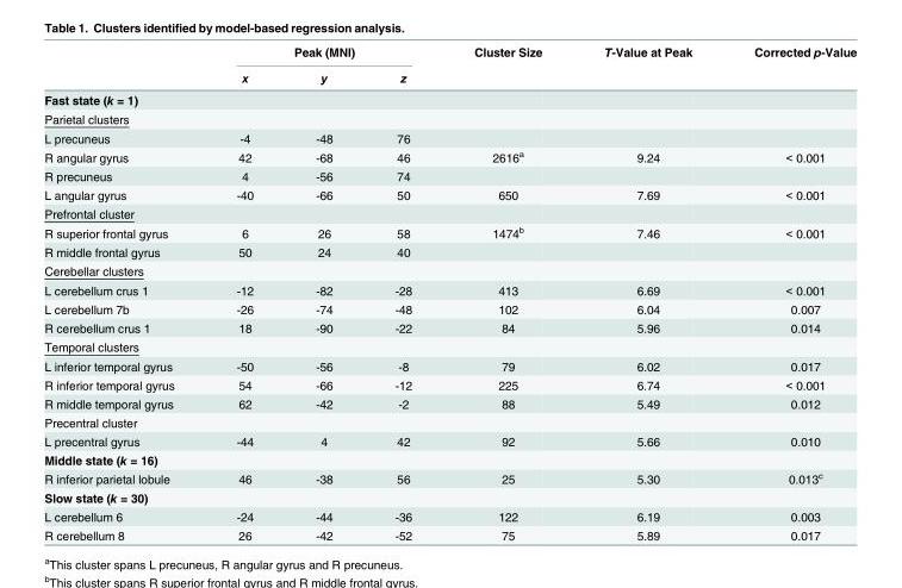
<table><thead><tr><td rowspan="2"></td><td colspan="3">Peak (MNI)</td><td rowspan="2">Cluster Size</td><td rowspan="2">T-Value at Peak</td><td rowspan="2">Corrected p-Value</td></tr><tr><td>x</td><td>y</td><td>z</td></tr></thead><tbody><tr><td colspan="7">Fast state (k = 1)</td></tr><tr><td colspan="7">Parietal clusters</td></tr><tr><td>L precuneus</td><td>-4</td><td>-48</td><td>76</td><td></td><td></td><td></td></tr><tr><td>R angular gyrus</td><td>42</td><td>-68</td><td>46</td><td>2616<sup>a</sup></td><td>9.24</td><td>&lt; 0.001</td></tr><tr><td>R precuneus</td><td>4</td><td>-56</td><td>74</td><td></td><td></td><td></td></tr><tr><td>L angular gyrus</td><td>-40</td><td>-66</td><td>50</td><td>650</td><td>7.69</td><td>&lt; 0.001</td></tr><tr><td colspan="7">Prefrontal cluster</td></tr><tr><td>R superior frontal gyrus</td><td>6</td><td>26</td><td>58</td><td>1474<sup>b</sup></td><td>7.46</td><td>&lt; 0.001</td></tr><tr><td>R middle frontal gyrus</td><td>50</td><td>24</td><td>40</td><td></td><td></td><td></td></tr><tr><td colspan="7">Cerebellar clusters</td></tr><tr><td>L cerebellum crus 1</td><td>-12</td><td>-82</td><td>-28</td><td>413</td><td>6.69</td><td>&lt; 0.001</td></tr><tr><td>L cerebellum 7b</td><td>-26</td><td>-74</td><td>-48</td><td>102</td><td>6.04</td><td>0.007</td></tr><tr><td>R cerebellum crus 1</td><td>18</td><td>-90</td><td>-22</td><td>84</td><td>5.96</td><td>0.014</td></tr><tr><td colspan="7">Temporal clusters</td></tr><tr><td>L inferior temporal gyrus</td><td>-50</td><td>-56</td><td>-8</td><td>79</td><td>6.02</td><td>0.017</td></tr><tr><td>R inferior temporal gyrus</td><td>54</td><td>-66</td><td>-12</td><td>225</td><td>6.74</td><td>&lt; 0.001</td></tr><tr><td>R middle temporal gyrus</td><td>62</td><td>-42</td><td>-2</td><td>88</td><td>5.49</td><td>0.012</td></tr><tr><td colspan="7">Precentral cluster</td></tr><tr><td>L precentral gyrus</td><td>-44</td><td>4</td><td>42</td><td>92</td><td>5.66</td><td>0.010</td></tr><tr><td colspan="7">Middle state (k = 16)</td></tr><tr><td>R inferior parietal lobule</td><td>46</td><td>-38</td><td>56</td><td>25</td><td>5.30</td><td>0.013<sup>c</sup></td></tr><tr><td colspan="7">Slow state (k = 30)</td></tr><tr><td>L cerebellum 6</td><td>-24</td><td>-44</td><td>-36</td><td>122</td><td>6.19</td><td>0.003</td></tr><tr><td>R cerebellum 8</td><td>26</td><td>-42</td><td>-52</td><td>75</td><td>5.89</td><td>0.017</td></tr></tbody></table>